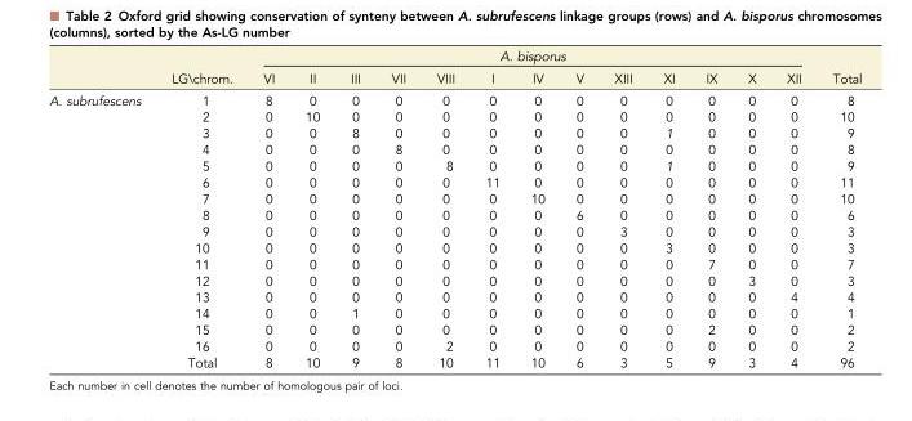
<table><thead><tr><td rowspan="2"></td><td rowspan="2">LG\chrom.</td><td colspan="13">A. bisporus</td><td rowspan="2">Total</td></tr><tr><td>VI</td><td>II</td><td>III</td><td>VII</td><td>VIII</td><td>I</td><td>IV</td><td>V</td><td>XIII</td><td>XI</td><td>IX</td><td>X</td><td>XII</td></tr></thead><tbody><tr><td rowspan="17">A. subrufescens</td><td>1</td><td>8</td><td>0</td><td>0</td><td>0</td><td>0</td><td>0</td><td>0</td><td>0</td><td>0</td><td>0</td><td>0</td><td>0</td><td>0</td><td>8</td></tr><tr><td>2</td><td>0</td><td>10</td><td>0</td><td>0</td><td>0</td><td>0</td><td>0</td><td>0</td><td>0</td><td>0</td><td>0</td><td>0</td><td>0</td><td>10</td></tr><tr><td>3</td><td>0</td><td>0</td><td>8</td><td>0</td><td>0</td><td>0</td><td>0</td><td>0</td><td>0</td><td>1</td><td>0</td><td>0</td><td>0</td><td>9</td></tr><tr><td>4</td><td>0</td><td>0</td><td>0</td><td>8</td><td>0</td><td>0</td><td>0</td><td>0</td><td>0</td><td>0</td><td>0</td><td>0</td><td>0</td><td>8</td></tr><tr><td>5</td><td>0</td><td>0</td><td>0</td><td>0</td><td>8</td><td>0</td><td>0</td><td>0</td><td>0</td><td>1</td><td>0</td><td>0</td><td>0</td><td>9</td></tr><tr><td>6</td><td>0</td><td>0</td><td>0</td><td>0</td><td>0</td><td>11</td><td>0</td><td>0</td><td>0</td><td>0</td><td>0</td><td>0</td><td>0</td><td>11</td></tr><tr><td>7</td><td>0</td><td>0</td><td>0</td><td>0</td><td>0</td><td>0</td><td>10</td><td>0</td><td>0</td><td>0</td><td>0</td><td>0</td><td>0</td><td>10</td></tr><tr><td>8</td><td>0</td><td>0</td><td>0</td><td>0</td><td>0</td><td>0</td><td>0</td><td>6</td><td>0</td><td>0</td><td>0</td><td>0</td><td>0</td><td>6</td></tr><tr><td>9</td><td>0</td><td>0</td><td>0</td><td>0</td><td>0</td><td>0</td><td>0</td><td>0</td><td>3</td><td>0</td><td>0</td><td>0</td><td>0</td><td>3</td></tr><tr><td>10</td><td>0</td><td>0</td><td>0</td><td>0</td><td>0</td><td>0</td><td>0</td><td>0</td><td>0</td><td>3</td><td>0</td><td>0</td><td>0</td><td>3</td></tr><tr><td>11</td><td>0</td><td>0</td><td>0</td><td>0</td><td>0</td><td>0</td><td>0</td><td>0</td><td>0</td><td>0</td><td>7</td><td>0</td><td>0</td><td>7</td></tr><tr><td>12</td><td>0</td><td>0</td><td>0</td><td>0</td><td>0</td><td>0</td><td>0</td><td>0</td><td>0</td><td>0</td><td>0</td><td>3</td><td>0</td><td>3</td></tr><tr><td>13</td><td>0</td><td>0</td><td>0</td><td>0</td><td>0</td><td>0</td><td>0</td><td>0</td><td>0</td><td>0</td><td>0</td><td>0</td><td>4</td><td>4</td></tr><tr><td>14</td><td>0</td><td>0</td><td>1</td><td>0</td><td>0</td><td>0</td><td>0</td><td>0</td><td>0</td><td>0</td><td>0</td><td>0</td><td>0</td><td>1</td></tr><tr><td>15</td><td>0</td><td>0</td><td>0</td><td>0</td><td>0</td><td>0</td><td>0</td><td>0</td><td>0</td><td>0</td><td>2</td><td>0</td><td>0</td><td>2</td></tr><tr><td>16</td><td>0</td><td>0</td><td>0</td><td>0</td><td>2</td><td>0</td><td>0</td><td>0</td><td>0</td><td>0</td><td>0</td><td>0</td><td>0</td><td>2</td></tr><tr><td>Total</td><td>8</td><td>10</td><td>9</td><td>8</td><td>10</td><td>11</td><td>10</td><td>6</td><td>3</td><td>5</td><td>9</td><td>3</td><td>4</td><td>96</td></tr></tbody></table>